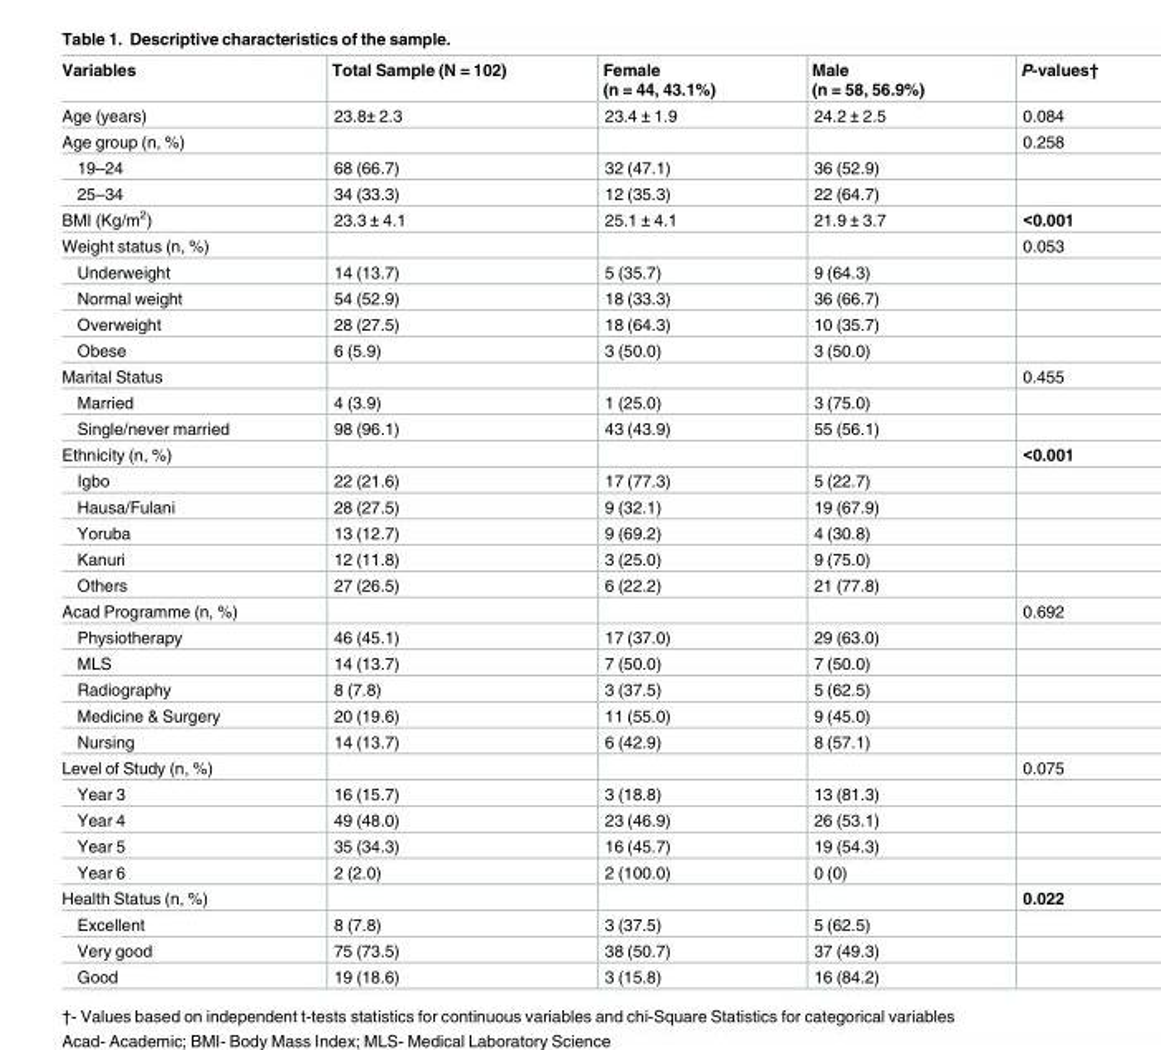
<table><thead><tr><td>Variables</td><td>Total Sample (N = 102)</td><td>Female (n = 44, 43.1%)</td><td>Male (n = 58, 56.9%)</td><td>P-values†</td></tr></thead><tbody><tr><td>Age (years)</td><td>23.8± 2.3</td><td>23.4 ± 1.9</td><td>24.2 ± 2.5</td><td>0.084</td></tr><tr><td>Age group (n, %)</td><td></td><td></td><td></td><td>0.258</td></tr><tr><td>19–24</td><td>68 (66.7)</td><td>32 (47.1)</td><td>36 (52.9)</td><td></td></tr><tr><td>25–34</td><td>34 (33.3)</td><td>12 (35.3)</td><td>22 (64.7)</td><td></td></tr><tr><td>BMI (Kg/m<sup>2</sup>)</td><td>23.3 ± 4.1</td><td>25.1 ± 4.1</td><td>21.9 ± 3.7</td><td>&lt;0.001</td></tr><tr><td>Weight status (n, %)</td><td></td><td></td><td></td><td>0.053</td></tr><tr><td>Underweight</td><td>14 (13.7)</td><td>5 (35.7)</td><td>9 (64.3)</td><td></td></tr><tr><td>Normal weight</td><td>54 (52.9)</td><td>18 (33.3)</td><td>36 (66.7)</td><td></td></tr><tr><td>Overweight</td><td>28 (27.5)</td><td>18 (64.3)</td><td>10 (35.7)</td><td></td></tr><tr><td>Obese</td><td>6 (5.9)</td><td>3 (50.0)</td><td>3 (50.0)</td><td></td></tr><tr><td>Marital Status</td><td></td><td></td><td></td><td>0.455</td></tr><tr><td>Married</td><td>4 (3.9)</td><td>1 (25.0)</td><td>3 (75.0)</td><td></td></tr><tr><td>Single/never married</td><td>98 (96.1)</td><td>43 (43.9)</td><td>55 (56.1)</td><td></td></tr><tr><td>Ethnicity (n, %)</td><td></td><td></td><td></td><td>&lt;0.001</td></tr><tr><td>Igbo</td><td>22 (21.6)</td><td>17 (77.3)</td><td>5 (22.7)</td><td></td></tr><tr><td>Hausa/Fulani</td><td>28 (27.5)</td><td>9 (32.1)</td><td>19 (67.9)</td><td></td></tr><tr><td>Yoruba</td><td>13 (12.7)</td><td>9 (69.2)</td><td>4 (30.8)</td><td></td></tr><tr><td>Kanuri</td><td>12 (11.8)</td><td>3 (25.0)</td><td>9 (75.0)</td><td></td></tr><tr><td>Others</td><td>27 (26.5)</td><td>6 (22.2)</td><td>21 (77.8)</td><td></td></tr><tr><td>Acad Programme (n, %)</td><td></td><td></td><td></td><td>0.692</td></tr><tr><td>Physiotherapy</td><td>46 (45.1)</td><td>17 (37.0)</td><td>29 (63.0)</td><td></td></tr><tr><td>MLS</td><td>14 (13.7)</td><td>7 (50.0)</td><td>7 (50.0)</td><td></td></tr><tr><td>Radiography</td><td>8 (7.8)</td><td>3 (37.5)</td><td>5 (62.5)</td><td></td></tr><tr><td>Medicine &amp; Surgery</td><td>20 (19.6)</td><td>11 (55.0)</td><td>9 (45.0)</td><td></td></tr><tr><td>Nursing</td><td>14 (13.7)</td><td>6 (42.9)</td><td>8 (57.1)</td><td></td></tr><tr><td>Level of Study (n, %)</td><td></td><td></td><td></td><td>0.075</td></tr><tr><td>Year 3</td><td>16 (15.7)</td><td>3 (18.8)</td><td>13 (81.3)</td><td></td></tr><tr><td>Year 4</td><td>49 (48.0)</td><td>23 (46.9)</td><td>26 (53.1)</td><td></td></tr><tr><td>Year 5</td><td>35 (34.3)</td><td>16 (45.7)</td><td>19 (54.3)</td><td></td></tr><tr><td>Year 6</td><td>2 (2.0)</td><td>2 (100.0)</td><td>0 (0)</td><td></td></tr><tr><td>Health Status (n, %)</td><td></td><td></td><td></td><td>0.022</td></tr><tr><td>Excellent</td><td>8 (7.8)</td><td>3 (37.5)</td><td>5 (62.5)</td><td></td></tr><tr><td>Very good</td><td>75 (73.5)</td><td>38 (50.7)</td><td>37 (49.3)</td><td></td></tr><tr><td>Good</td><td>19 (18.6)</td><td>3 (15.8)</td><td>16 (84.2)</td><td></td></tr></tbody></table>